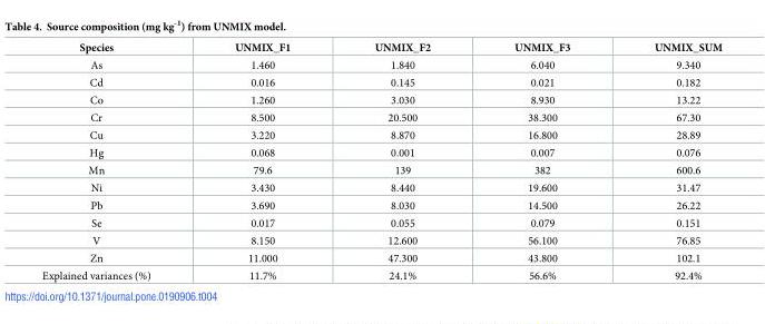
<table><thead><tr><td>Species</td><td>UNMIX_F1</td><td>UNMIX_F2</td><td>UNMIX_F3</td><td>UNMIX_SUM</td></tr></thead><tbody><tr><td>As</td><td>1.460</td><td>1.840</td><td>6.040</td><td>9.340</td></tr><tr><td>Cd</td><td>0.016</td><td>0.145</td><td>0.021</td><td>0.182</td></tr><tr><td>Co</td><td>1.260</td><td>3.030</td><td>8.930</td><td>13.22</td></tr><tr><td>Cr</td><td>8.500</td><td>20.500</td><td>38.300</td><td>67.30</td></tr><tr><td>Cu</td><td>3.220</td><td>8.870</td><td>16.800</td><td>28.89</td></tr><tr><td>Hg</td><td>0.068</td><td>0.001</td><td>0.007</td><td>0.076</td></tr><tr><td>Mn</td><td>79.6</td><td>139</td><td>382</td><td>600.6</td></tr><tr><td>Ni</td><td>3.430</td><td>8.440</td><td>19.600</td><td>31.47</td></tr><tr><td>Pb</td><td>3.690</td><td>8.030</td><td>14.500</td><td>26.22</td></tr><tr><td>Se</td><td>0.017</td><td>0.055</td><td>0.079</td><td>0.151</td></tr><tr><td>V</td><td>8.150</td><td>12.600</td><td>56.100</td><td>76.85</td></tr><tr><td>Zn</td><td>11.000</td><td>47.300</td><td>43.800</td><td>102.1</td></tr><tr><td>Explained variances (%)</td><td>11.7%</td><td>24.1%</td><td>56.6%</td><td>92.4%</td></tr></tbody></table>